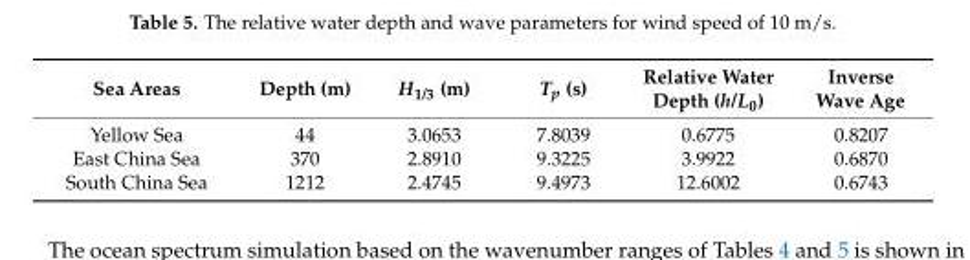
<table><thead><tr><td>Sea Areas</td><td>Depth (m)</td><td>H<sub>1/3</sub> (m)</td><td>T<sub>p</sub> (s)</td><td>Relative Water Depth (h/L<sub>0</sub>)</td><td>Inverse Wave Age</td></tr></thead><tbody><tr><td>Yellow Sea</td><td>44</td><td>3.0653</td><td>7.8039</td><td>0.6775</td><td>0.8207</td></tr><tr><td>East China Sea</td><td>370</td><td>2.8910</td><td>9.3225</td><td>3.9922</td><td>0.6870</td></tr><tr><td>South China Sea</td><td>1212</td><td>2.4745</td><td>9.4973</td><td>12.6002</td><td>0.6743</td></tr></tbody></table>